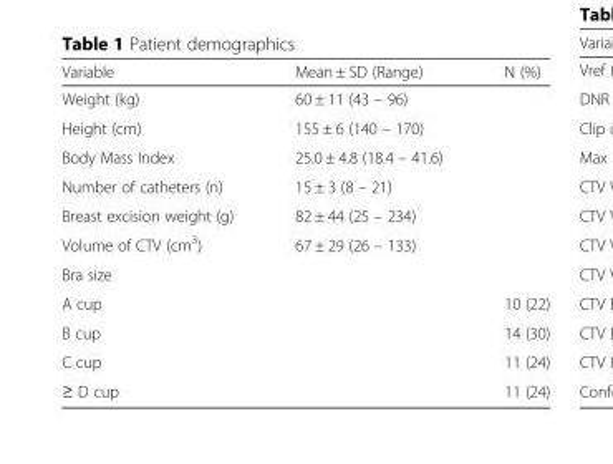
<table><thead><tr><td>Variable</td><td>Mean ± SD (Range)</td><td>N (%)</td></tr></thead><tbody><tr><td>Weight (kg)</td><td>60 ± 11 (43 – 96)</td><td></td></tr><tr><td>Height (cm)</td><td>155 ± 6 (140 – 170)</td><td></td></tr><tr><td>Body Mass Index</td><td>25.0 ± 4.8 (18.4 – 41.6)</td><td></td></tr><tr><td>Number of catheters (n)</td><td>15 ± 3 (8 – 21)</td><td></td></tr><tr><td>Breast excision weight (g)</td><td>82 ± 44 (25 – 234)</td><td></td></tr><tr><td>Volume of CTV (cm<sup>3</sup>)</td><td>67 ± 29 (26 – 133)</td><td></td></tr><tr><td colspan="3">Bra size</td></tr><tr><td>A cup</td><td></td><td>10 (22)</td></tr><tr><td>B cup</td><td></td><td>14 (30)</td></tr><tr><td>C cup</td><td></td><td>11 (24)</td></tr><tr><td>≥ D cup</td><td></td><td>11 (24)</td></tr></tbody></table>